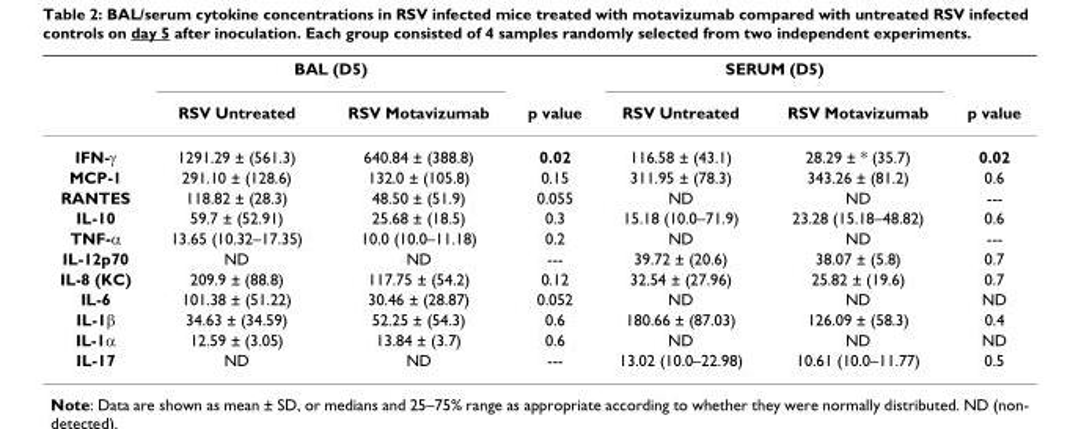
<table><thead><tr><td rowspan="2"></td><td colspan="2">BAL (D5)</td><td rowspan="2">p value</td><td colspan="2">SERUM (D5)</td><td rowspan="2">p value</td></tr><tr><td>RSV Untreated</td><td>RSV Motavizumab</td><td>RSV Untreated</td><td>RSV Motavizumab</td></tr></thead><tbody><tr><td>IFN-γ</td><td>1291.29 ± (561.3)</td><td>640.84 ± (388.8)</td><td>0.02</td><td>116.58 ± (43.1)</td><td>28.29 ± * (35.7)</td><td>0.02</td></tr><tr><td>MCP-1</td><td>291.10 ± (128.6)</td><td>132.0 ± (105.8)</td><td>0.15</td><td>311.95 ± (78.3)</td><td>343.26 ± (81.2)</td><td>0.6</td></tr><tr><td>RANTES</td><td>118.82 ± (28.3)</td><td>48.50 ± (51.9)</td><td>0.055</td><td>ND</td><td>ND</td><td>---</td></tr><tr><td>IL-10</td><td>59.7 ± (52.91)</td><td>25.68 ± (18.5)</td><td>0.3</td><td>15.18 (10.0–71.9)</td><td>23.28 (15.18–48.82)</td><td>0.6</td></tr><tr><td>TNF-α</td><td>13.65 (10.32–17.35)</td><td>10.0 (10.0–11.18)</td><td>0.2</td><td>ND</td><td>ND</td><td>---</td></tr><tr><td>IL-12p70</td><td>ND</td><td>ND</td><td>---</td><td>39.72 ± (20.6)</td><td>38.07 ± (5.8)</td><td>0.7</td></tr><tr><td>IL-8 (KC)</td><td>209.9 ± (88.8)</td><td>117.75 ± (54.2)</td><td>0.12</td><td>32.54 ± (27.96)</td><td>25.82 ± (19.6)</td><td>0.7</td></tr><tr><td>IL-6</td><td>101.38 ± (51.22)</td><td>30.46 ± (28.87)</td><td>0.052</td><td>ND</td><td>ND</td><td>ND</td></tr><tr><td>IL-1β</td><td>34.63 ± (34.59)</td><td>52.25 ± (54.3)</td><td>0.6</td><td>180.66 ± (87.03)</td><td>126.09 ± (58.3)</td><td>0.4</td></tr><tr><td>IL-1α</td><td>12.59 ± (3.05)</td><td>13.84 ± (3.7)</td><td>0.6</td><td>ND</td><td>ND</td><td>ND</td></tr><tr><td>IL-17</td><td>ND</td><td>ND</td><td>---</td><td>13.02 (10.0–22.98)</td><td>10.61 (10.0–11.77)</td><td>0.5</td></tr></tbody></table>